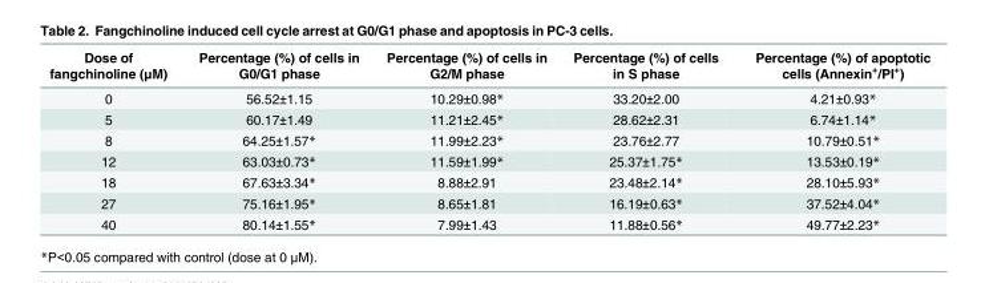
<table><thead><tr><td>Dose of fangchinoline (μM)</td><td>Percentage (%) of cells in G0/G1 phase</td><td>Percentage (%) of cells in G2/M phase</td><td>Percentage (%) of cells in S phase</td><td>Percentage (%) of apoptotic cells (Annexin<sup>+</sup>/PI<sup>+</sup>)</td></tr></thead><tbody><tr><td>0</td><td>56.52±1.15</td><td>10.29±0.98*</td><td>33.20±2.00</td><td>4.21±0.93*</td></tr><tr><td>5</td><td>60.17±1.49</td><td>11.21±2.45*</td><td>28.62±2.31</td><td>6.74±1.14*</td></tr><tr><td>8</td><td>64.25±1.57*</td><td>11.99±2.23*</td><td>23.76±2.77</td><td>10.79±0.51*</td></tr><tr><td>12</td><td>63.03±0.73*</td><td>11.59±1.99*</td><td>25.37±1.75*</td><td>13.53±0.19*</td></tr><tr><td>18</td><td>67.63±3.34*</td><td>8.88±2.91</td><td>23.48±2.14*</td><td>28.10±5.93*</td></tr><tr><td>27</td><td>75.16±1.95*</td><td>8.65±1.81</td><td>16.19±0.63*</td><td>37.52±4.04*</td></tr><tr><td>40</td><td>80.14±1.55*</td><td>7.99±1.43</td><td>11.88±0.56*</td><td>49.77±2.23*</td></tr></tbody></table>